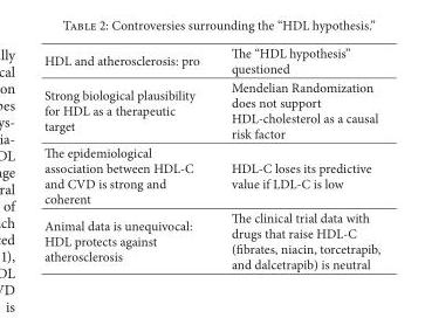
<table><thead><tr><td>HDL and atherosclerosis: pro</td><td>The “HDL hypothesis” questioned</td></tr></thead><tbody><tr><td>Strong biological plausibility for HDL as a therapeutic target</td><td>Mendelian Randomization does not support HDL-cholesterol as a causal risk factor</td></tr><tr><td>The epidemiological association between HDL-C and CVD is strong and coherent</td><td>HDL-C loses its predictive value if LDL-C is low</td></tr><tr><td>Animal data is unequivocal: HDL protects against atherosclerosis</td><td>The clinical trial data with drugs that raise HDL-C (fibrates, niacin, torcetrapib, and dalcetrapib) is neutral</td></tr></tbody></table>